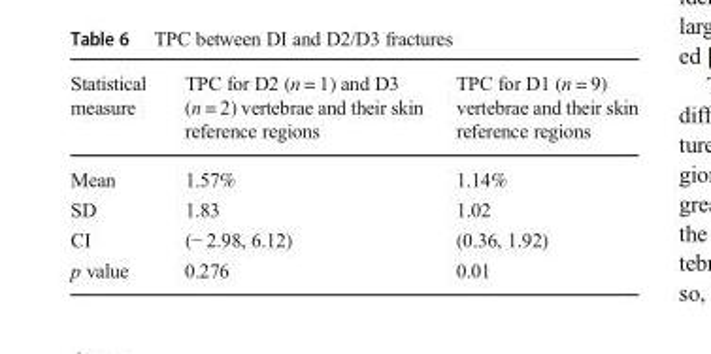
<table><thead><tr><td>Statistical measure</td><td>TPC for D2 (n = 1) and D3 (n = 2) vertebrae and their skin reference regions</td><td>TPC for D1 (n = 9) vertebrae and their skin reference regions</td></tr></thead><tbody><tr><td>Mean</td><td>1.57%</td><td>1.14%</td></tr><tr><td>SD</td><td>1.83</td><td>1.02</td></tr><tr><td>CI</td><td>(− 2.98, 6.12)</td><td>(0.36, 1.92)</td></tr><tr><td>p value</td><td>0.276</td><td>0.01</td></tr></tbody></table>